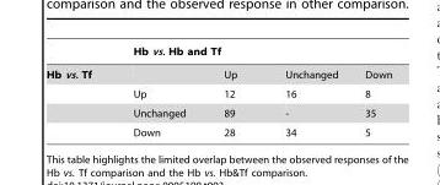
<table><thead><tr><td rowspan="2">Hb vs. Tf</td><td colspan="4">Hb vs. Hb and Tf</td></tr><tr><td></td><td>Up</td><td>Unchanged</td><td>Down</td></tr></thead><tbody><tr><td></td><td>Up</td><td>12</td><td>16</td><td>8</td></tr><tr><td></td><td>Unchanged</td><td>89</td><td>-</td><td>35</td></tr><tr><td></td><td>Down</td><td>28</td><td>34</td><td>5</td></tr></tbody></table>